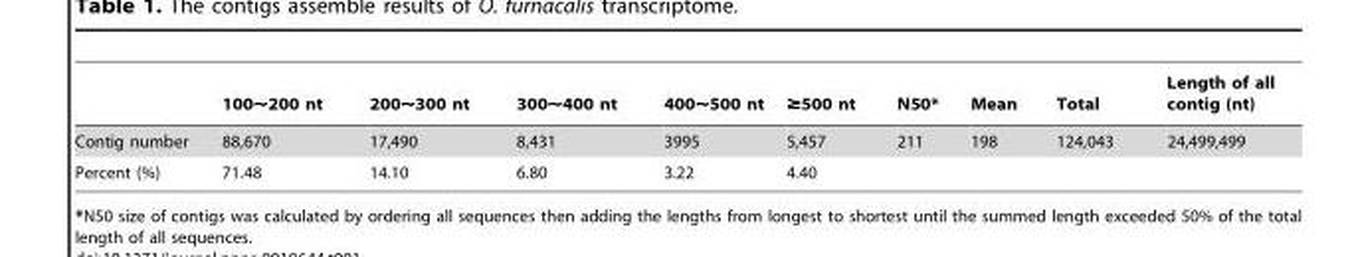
<table><thead><tr><td></td><td>100∼200 nt</td><td>200∼300 nt</td><td>300∼400 nt</td><td>400∼500 nt</td><td>≥500 nt</td><td>N50*</td><td>Mean</td><td>Total</td><td>Length of all contig (nt)</td></tr></thead><tbody><tr><td>Contig number</td><td>88,670</td><td>17,490</td><td>8,431</td><td>3995</td><td>5,457</td><td>211</td><td>198</td><td>124,043</td><td>24,499,499</td></tr><tr><td>Percent (%)</td><td>71.48</td><td>14.10</td><td>6.80</td><td>3.22</td><td>4.40</td><td></td><td></td><td></td><td></td></tr></tbody></table>